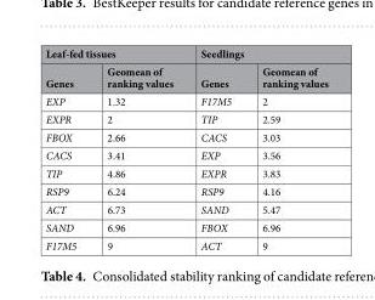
<table><thead><tr><td colspan="2">Leaf-fed tissues</td><td colspan="2">Seedlings</td></tr><tr><td>Genes</td><td>Geomean of ranking values</td><td>Genes</td><td>Geomean of ranking values</td></tr></thead><tbody><tr><td>EXP</td><td>1.32</td><td>F17M5</td><td>2</td></tr><tr><td>EXPR</td><td>2</td><td>TIP</td><td>2.59</td></tr><tr><td>FBOX</td><td>2.66</td><td>CACS</td><td>3.03</td></tr><tr><td>CACS</td><td>3.41</td><td>EXP</td><td>3.56</td></tr><tr><td>TIP</td><td>4.86</td><td>EXPR</td><td>3.83</td></tr><tr><td>RSP9</td><td>6.24</td><td>RSP9</td><td>4.16</td></tr><tr><td>ACT</td><td>6.73</td><td>SAND</td><td>5.47</td></tr><tr><td>SAND</td><td>6.96</td><td>FBOX</td><td>6.96</td></tr><tr><td>F17M5</td><td>9</td><td>ACT</td><td>9</td></tr></tbody></table>